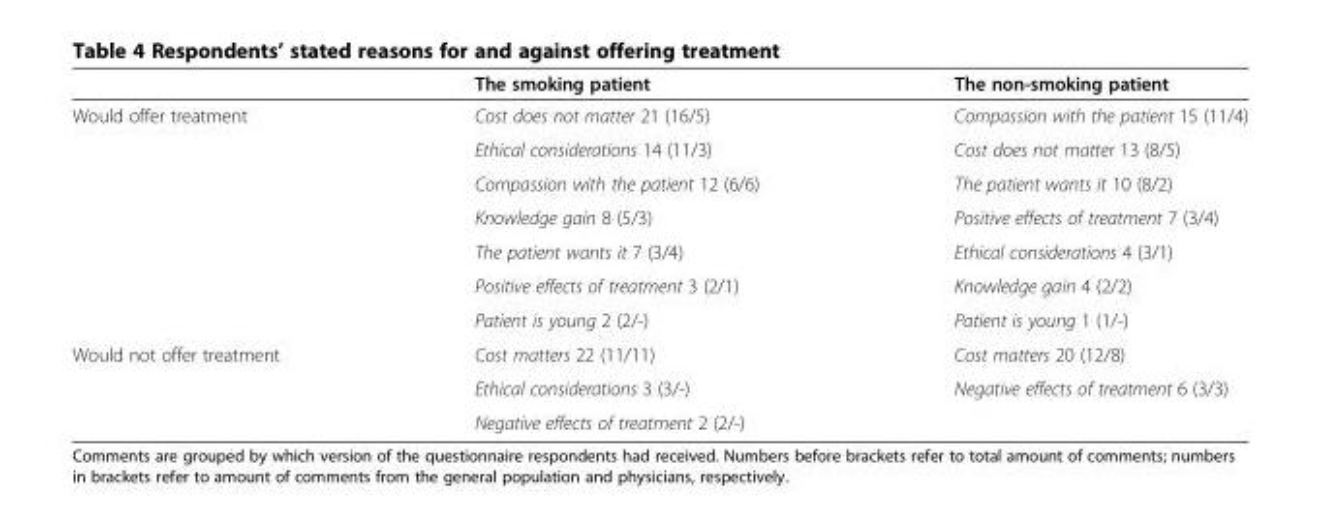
<table><thead><tr><td></td><td>The smoking patient</td><td>The non-smoking patient</td></tr></thead><tbody><tr><td rowspan="7">Would offer treatment</td><td>Cost does not matter 21 (16/5)</td><td>Compassion with the patient 15 (11/4)</td></tr><tr><td>Ethical considerations 14 (11/3)</td><td>Cost does not matter 13 (8/5)</td></tr><tr><td>Compassion with the patient 12 (6/6)</td><td>The patient wants it 10 (8/2)</td></tr><tr><td>Knowledge gain 8 (5/3)</td><td>Positive effects of treatment 7 (3/4)</td></tr><tr><td>The patient wants it 7 (3/4)</td><td>Ethical considerations 4 (3/1)</td></tr><tr><td>Positive effects of treatment 3 (2/1)</td><td>Knowledge gain 4 (2/2)</td></tr><tr><td>Patient is young 2 (2/-)</td><td>Patient is young 1 (1/-)</td></tr><tr><td rowspan="3">Would not offer treatment</td><td>Cost matters 22 (11/11)</td><td>Cost matters 20 (12/8)</td></tr><tr><td>Ethical considerations 3 (3/-)</td><td>Negative effects of treatment 6 (3/3)</td></tr><tr><td>Negative effects of treatment 2 (2/-)</td><td></td></tr></tbody></table>